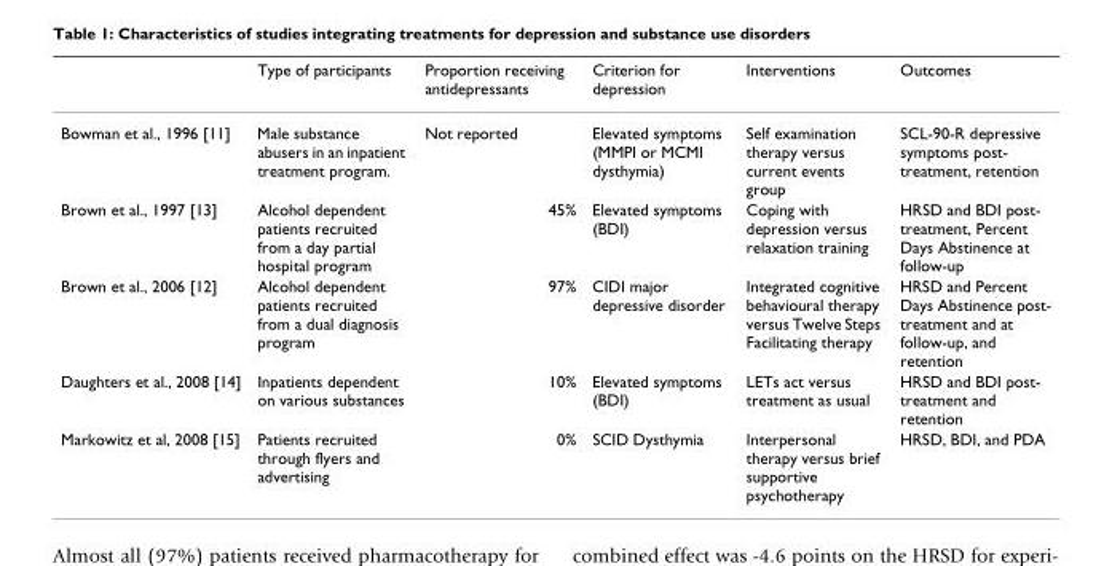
<table><thead><tr><td></td><td>Type of participants</td><td>Proportion receiving antidepressants</td><td>Criterion for depression</td><td>Interventions</td><td>Outcomes</td></tr></thead><tbody><tr><td>Bowman et al., 1996 [11]</td><td>Male substance abusers in an inpatient treatment program.</td><td>Not reported</td><td>Elevated symptoms (MMPI or MCMI dysthymia)</td><td>Self examination therapy versus current events group</td><td>SCL-90-R depressive symptoms post- treatment, retention</td></tr><tr><td>Brown et al., 1997 [13]</td><td>Alcohol dependent patients recruited from a day partial hospital program</td><td>45%</td><td>Elevated symptoms (BDI)</td><td>Coping with depression versus relaxation training</td><td>HRSD and BDI post- treatment, Percent Days Abstinence at follow-up</td></tr><tr><td>Brown et al., 2006 [12]</td><td>Alcohol dependent patients recruited from a dual diagnosis program</td><td>97%</td><td>CIDI major depressive disorder</td><td>Integrated cognitive behavioural therapy versus Twelve Steps Facilitating therapy</td><td>HRSD and Percent Days Abstinence post- treatment and at follow-up, and retention</td></tr><tr><td>Daughters et al., 2008 [14]</td><td>Inpatients dependent on various substances</td><td>10%</td><td>Elevated symptoms (BDI)</td><td>LETs act versus treatment as usual</td><td>HRSD and BDI post- treatment and retention</td></tr><tr><td>Markowitz et al, 2008 [15]</td><td>Patients recruited through flyers and advertising</td><td>0%</td><td>SCID Dysthymia</td><td>Interpersonal therapy versus brief supportive psychotherapy</td><td>HRSD, BDI, and PDA</td></tr></tbody></table>